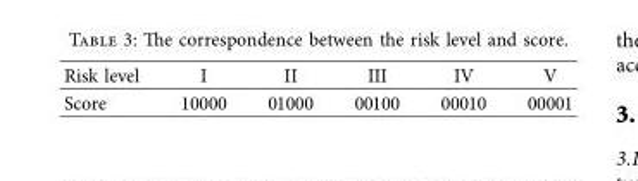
<table><thead><tr><td>Risk level</td><td>I</td><td>II</td><td>III</td><td>IV</td><td>V</td></tr></thead><tbody><tr><td>Score</td><td>10000</td><td>01000</td><td>00100</td><td>00010</td><td>00001</td></tr></tbody></table>